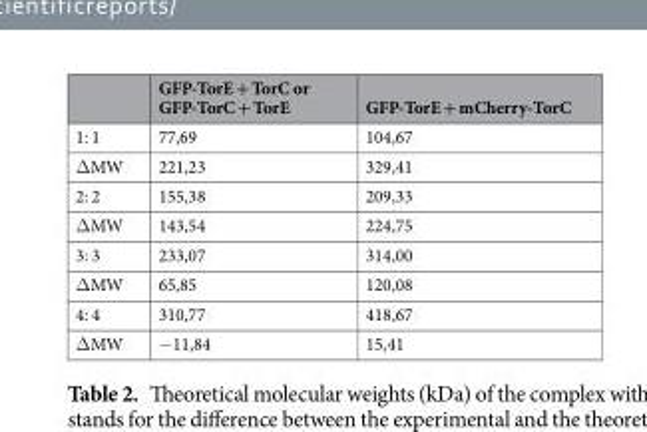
<table><thead><tr><td></td><td>GFP-TorE + TorC or GFP-TorC + TorE</td><td>GFP-TorE + mCherry-TorC</td></tr></thead><tbody><tr><td>1: 1</td><td>77,69</td><td>104,67</td></tr><tr><td>ΔMW</td><td>221,23</td><td>329,41</td></tr><tr><td>2: 2</td><td>155,38</td><td>209,33</td></tr><tr><td>ΔMW</td><td>143,54</td><td>224,75</td></tr><tr><td>3: 3</td><td>233,07</td><td>314,00</td></tr><tr><td>ΔMW</td><td>65,85</td><td>120,08</td></tr><tr><td>4: 4</td><td>310,77</td><td>418,67</td></tr><tr><td>ΔMW</td><td>−11,84</td><td>15,41</td></tr></tbody></table>